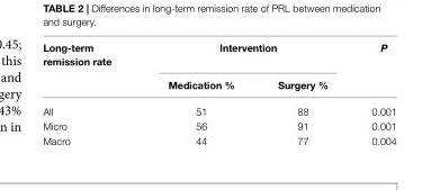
<table><thead><tr><td rowspan="2">Long-term remission rate</td><td colspan="2">Intervention</td><td rowspan="2">P</td></tr><tr><td>Medication %</td><td>Surgery %</td></tr></thead><tbody><tr><td>All</td><td>51</td><td>88</td><td>0.001</td></tr><tr><td>Micro</td><td>56</td><td>91</td><td>0.001</td></tr><tr><td>Macro</td><td>44</td><td>77</td><td>0.004</td></tr></tbody></table>